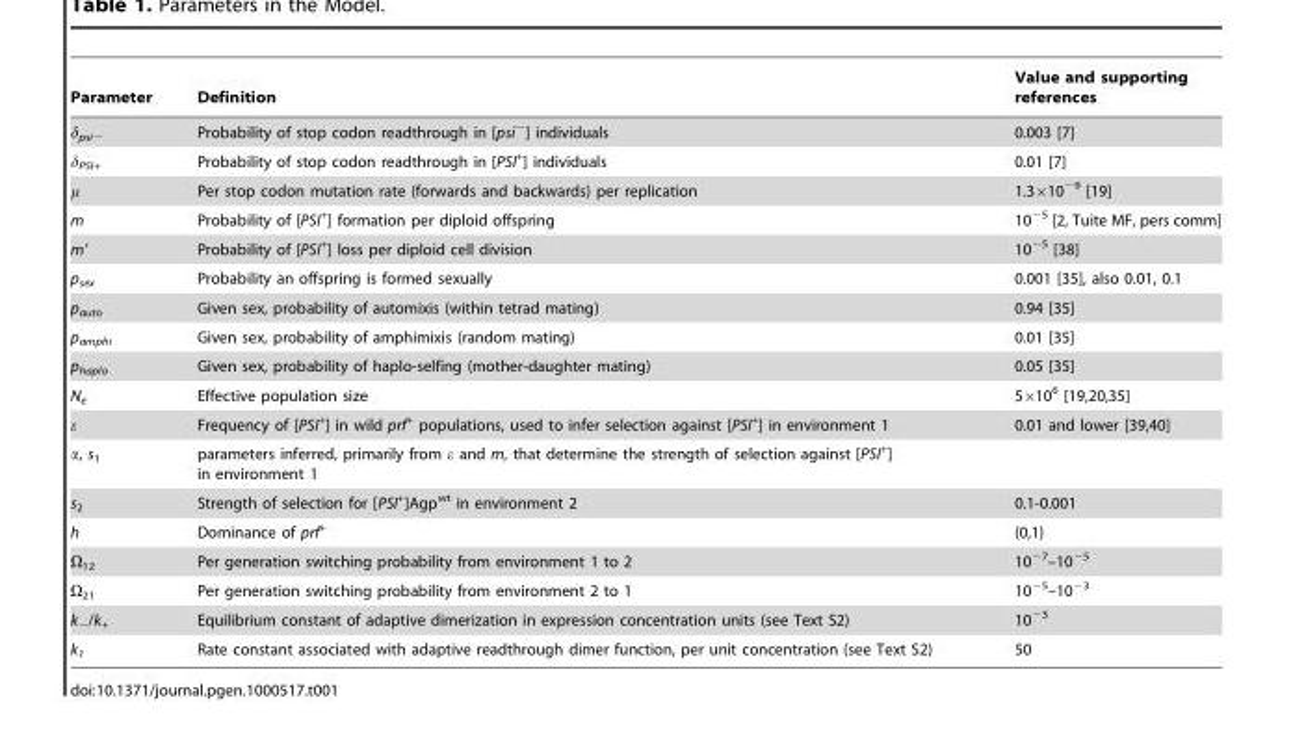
<table><thead><tr><td>Parameter</td><td>Definition</td><td>Value and supporting references</td></tr></thead><tbody><tr><td>δ<sub>psi−</sub></td><td>Probability of stop codon readthrough in [psi<sup>−</sup>] individuals</td><td>0.003 [7]</td></tr><tr><td>δ<sub>PSI+</sub></td><td>Probability of stop codon readthrough in [PSI<sup>+</sup>] individuals</td><td>0.01 [7]</td></tr><tr><td>μ</td><td>Per stop codon mutation rate (forwards and backwards) per replication</td><td>1.3×10<sup>−9</sup> [19]</td></tr><tr><td>m</td><td>Probability of [PSI<sup>+</sup>] formation per diploid offspring</td><td>10<sup>−5</sup> [2, Tuite MF, pers comm]</td></tr><tr><td>m′</td><td>Probability of [PSI<sup>+</sup>] loss per diploid cell division</td><td>10<sup>−5</sup> [38]</td></tr><tr><td>p<sub>sex</sub></td><td>Probability an offspring is formed sexually</td><td>0.001 [35], also 0.01, 0.1</td></tr><tr><td>p<sub>auto</sub></td><td>Given sex, probability of automixis (within tetrad mating)</td><td>0.94 [35]</td></tr><tr><td>p<sub>amphi</sub></td><td>Given sex, probability of amphimixis (random mating)</td><td>0.01 [35]</td></tr><tr><td>p<sub>haplo</sub></td><td>Given sex, probability of haplo-selfing (mother-daughter mating)</td><td>0.05 [35]</td></tr><tr><td>N<sub>e</sub></td><td>Effective population size</td><td>56106 [19,20,35]</td></tr><tr><td>ε</td><td>Frequency of [PSI<sup>+</sup>] in wild prf<sup>+</sup> populations, used to infer selection against [PSI<sup>+</sup>] in environment 1</td><td>0.01 and lower [39,40]</td></tr><tr><td>α, s<sub>1</sub></td><td>parameters inferred, primarily from ε and m, that determine the strength of selection against [PSI<sup>+</sup>] in environment 1</td><td></td></tr><tr><td>s<sub>2</sub></td><td>Strength of selection for [PSI<sup>+</sup>]Agp<sup>wt</sup> in environment 2</td><td>0.1-0.001</td></tr><tr><td>h</td><td>Dominance of prf<sup>+</sup></td><td>{0,1}</td></tr><tr><td>Ω<sub>12</sub></td><td>Per generation switching probability from environment 1 to 2</td><td>10<sup>−7</sup>–10<sup>−5</sup></td></tr><tr><td>Ω<sub>21</sub></td><td>Per generation switching probability from environment 2 to 1</td><td>10<sup>−5</sup>–10<sup>−3</sup></td></tr><tr><td>k<sub>−</sub>/k<sub>+</sub></td><td>Equilibrium constant of adaptive dimerization in expression concentration units (see Text S2)</td><td>10<sup>−3</sup></td></tr><tr><td>k<sub>1</sub></td><td>Rate constant associated with adaptive readthrough dimer function, per unit concentration (see Text S2)</td><td>50</td></tr></tbody></table>